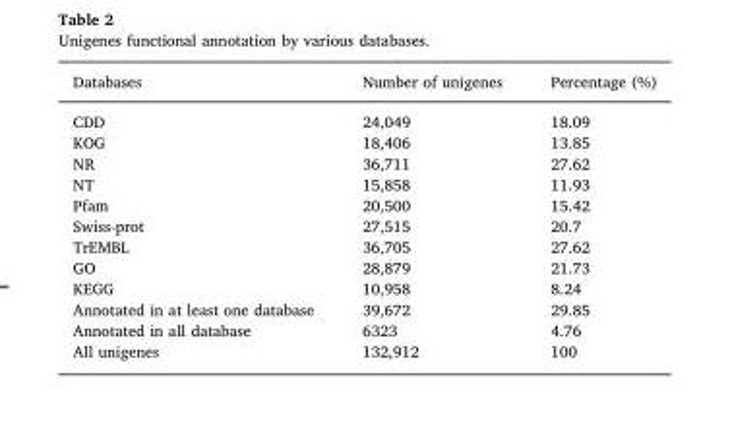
<table><thead><tr><td>Databases</td><td>Number of unigenes</td><td>Percentage (%)</td></tr></thead><tbody><tr><td>CDD</td><td>24,049</td><td>18.09</td></tr><tr><td>KOG</td><td>18,406</td><td>13.85</td></tr><tr><td>NR</td><td>36,711</td><td>27.62</td></tr><tr><td>NT</td><td>15,858</td><td>11.93</td></tr><tr><td>Pfam</td><td>20,500</td><td>15.42</td></tr><tr><td>Swiss-prot</td><td>27,515</td><td>20.7</td></tr><tr><td>TrEMBL</td><td>36,705</td><td>27.62</td></tr><tr><td>GO</td><td>28,879</td><td>21.73</td></tr><tr><td>KEGG</td><td>10,958</td><td>8.24</td></tr><tr><td>Annotated in at least one database</td><td>39,672</td><td>29.85</td></tr><tr><td>Annotated in all database</td><td>6323</td><td>4.76</td></tr><tr><td>All unigenes</td><td>132,912</td><td>100</td></tr></tbody></table>